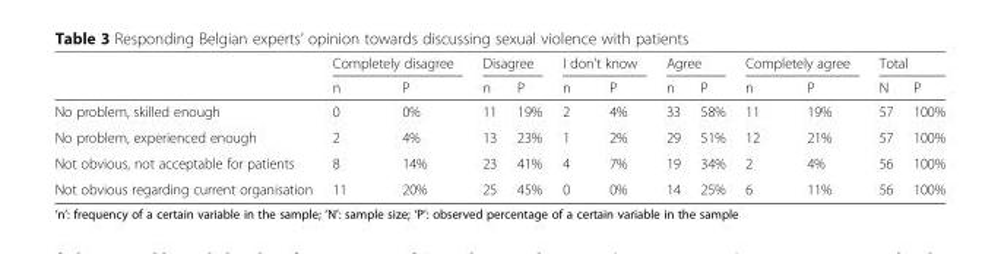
<table><thead><tr><td rowspan="2"></td><td colspan="2">Completely disagree</td><td colspan="2">Disagree</td><td colspan="2">I don’t know</td><td colspan="2">Agree</td><td colspan="2">Completely agree</td><td colspan="2">Total</td></tr><tr><td>n</td><td>P</td><td>n</td><td>P</td><td>n</td><td>P</td><td>n</td><td>P</td><td>n</td><td>P</td><td>N</td><td>P</td></tr></thead><tbody><tr><td>No problem, skilled enough</td><td>0</td><td>0%</td><td>11</td><td>19%</td><td>2</td><td>4%</td><td>33</td><td>58%</td><td>11</td><td>19%</td><td>57</td><td>100%</td></tr><tr><td>No problem, experienced enough</td><td>2</td><td>4%</td><td>13</td><td>23%</td><td>1</td><td>2%</td><td>29</td><td>51%</td><td>12</td><td>21%</td><td>57</td><td>100%</td></tr><tr><td>Not obvious, not acceptable for patients</td><td>8</td><td>14%</td><td>23</td><td>41%</td><td>4</td><td>7%</td><td>19</td><td>34%</td><td>2</td><td>4%</td><td>56</td><td>100%</td></tr><tr><td>Not obvious regarding current organisation</td><td>11</td><td>20%</td><td>25</td><td>45%</td><td>0</td><td>0%</td><td>14</td><td>25%</td><td>6</td><td>11%</td><td>56</td><td>100%</td></tr></tbody></table>